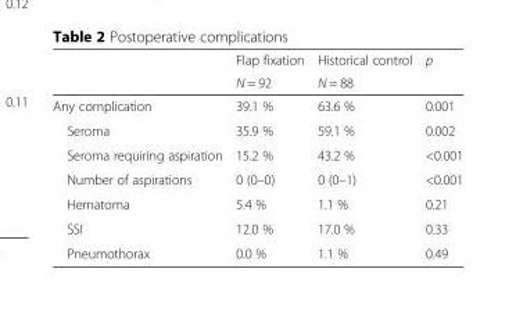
<table><thead><tr><td rowspan="2"></td><td rowspan="2">Flap fixation N = 92</td><td rowspan="2">Historical control N = 88</td><td rowspan="2">p</td></tr><tr></tr></thead><tbody><tr><td>Any complication</td><td>39.1 %</td><td>63.6 %</td><td>0.001</td></tr><tr><td>Seroma</td><td>35.9 %</td><td>59.1 %</td><td>0.002</td></tr><tr><td>Seroma requiring aspiration</td><td>15.2 %</td><td>43.2 %</td><td>&lt;0.001</td></tr><tr><td>Number of aspirations</td><td>0 (0–0)</td><td>0 (0–1)</td><td>&lt;0.001</td></tr><tr><td>Hematoma</td><td>5.4 %</td><td>1.1 %</td><td>0.21</td></tr><tr><td>SSI</td><td>12.0 %</td><td>17.0 %</td><td>0.33</td></tr><tr><td>Pneumothorax</td><td>0.0 %</td><td>1.1 %</td><td>0.49</td></tr></tbody></table>